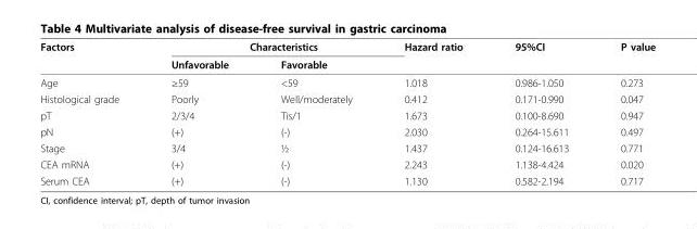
<table><thead><tr><td rowspan="2">Factors</td><td colspan="2">Characteristics</td><td rowspan="2">Hazard ratio</td><td rowspan="2">95%CI</td><td rowspan="2">P value</td></tr><tr><td>Unfavorable</td><td>Favorable</td></tr></thead><tbody><tr><td>Age</td><td>≥59</td><td>&lt;59</td><td>1.018</td><td>0.986-1.050</td><td>0.273</td></tr><tr><td>Histological grade</td><td>Poorly</td><td>Well/moderately</td><td>0.412</td><td>0.171-0.990</td><td>0.047</td></tr><tr><td>pT</td><td>2/3/4</td><td>Tis/1</td><td>1.673</td><td>0.100-8.690</td><td>0.947</td></tr><tr><td>pN</td><td>(+)</td><td>(-)</td><td>2.030</td><td>0.264-15.611</td><td>0.497</td></tr><tr><td>Stage</td><td>3/4</td><td>½</td><td>1.437</td><td>0.124-16.613</td><td>0.771</td></tr><tr><td>CEA mRNA</td><td>(+)</td><td>(-)</td><td>2.243</td><td>1.138-4.424</td><td>0.020</td></tr><tr><td>Serum CEA</td><td>(+)</td><td>(-)</td><td>1.130</td><td>0.582-2.194</td><td>0.717</td></tr></tbody></table>